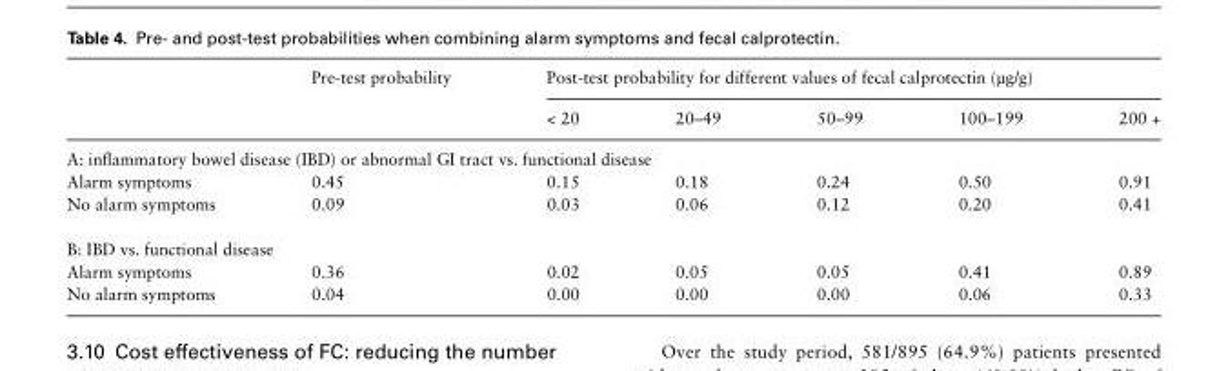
<table><thead><tr><td rowspan="2"></td><td rowspan="2">Pre-test probability</td><td colspan="5">Post-test probability for different values of fecal calprotectin (μg/g)</td></tr><tr><td>&lt; 20</td><td>20–49</td><td>50–99</td><td>100–199</td><td>200 +</td></tr></thead><tbody><tr><td colspan="7">A: inflammatory bowel disease (IBD) or abnormal GI tract vs. functional disease</td></tr><tr><td>Alarm symptoms</td><td>0.45</td><td>0.15</td><td>0.18</td><td>0.24</td><td>0.50</td><td>0.91</td></tr><tr><td>No alarm symptoms</td><td>0.09</td><td>0.03</td><td>0.06</td><td>0.12</td><td>0.20</td><td>0.41</td></tr><tr><td colspan="7">B: IBD vs. functional disease</td></tr><tr><td>Alarm symptoms</td><td>0.36</td><td>0.02</td><td>0.05</td><td>0.05</td><td>0.41</td><td>0.89</td></tr><tr><td>No alarm symptoms</td><td>0.04</td><td>0.00</td><td>0.00</td><td>0.00</td><td>0.06</td><td>0.33</td></tr></tbody></table>